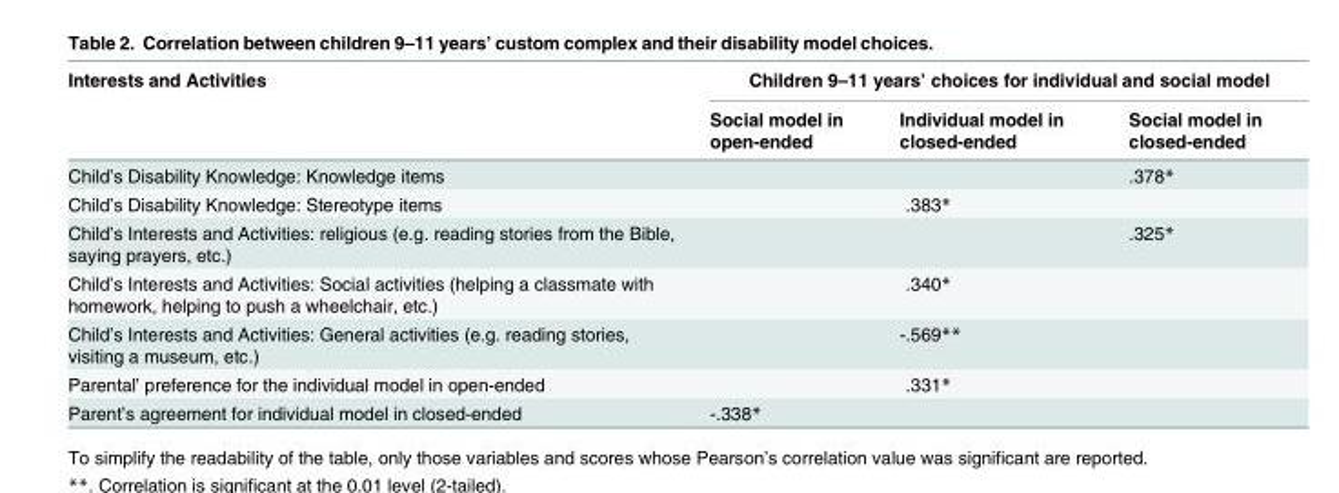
<table><thead><tr><td rowspan="2">Interests and Activities</td><td colspan="3">Children 9–11 years’ choices for individual and social model</td></tr><tr><td>Social model in open-ended</td><td>Individual model in closed-ended</td><td>Social model in closed-ended</td></tr></thead><tbody><tr><td>Child’s Disability Knowledge: Knowledge items</td><td></td><td></td><td>.378*</td></tr><tr><td>Child’s Disability Knowledge: Stereotype items</td><td></td><td>.383*</td><td></td></tr><tr><td>Child’s Interests and Activities: religious (e.g. reading stories from the Bible, saying prayers, etc.)</td><td></td><td></td><td>.325*</td></tr><tr><td>Child’s Interests and Activities: Social activities (helping a classmate with homework, helping to push a wheelchair, etc.)</td><td></td><td>.340*</td><td></td></tr><tr><td>Child’s Interests and Activities: General activities (e.g. reading stories, visiting a museum, etc.)</td><td></td><td>-.569**</td><td></td></tr><tr><td>Parental’ preference for the individual model in open-ended</td><td></td><td>.331*</td><td></td></tr><tr><td>Parent’s agreement for individual model in closed-ended</td><td>-.338*</td><td></td><td></td></tr></tbody></table>